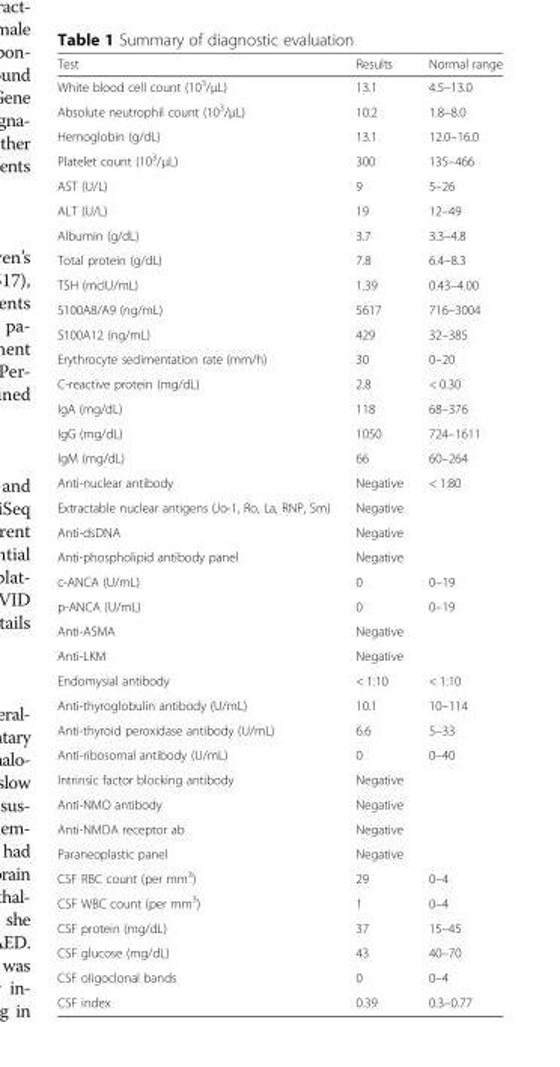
<table><thead><tr><td>Test</td><td>Results</td><td>Normal range</td></tr></thead><tbody><tr><td>White blood cell count (10<sup>3</sup>/μL)</td><td>13.1</td><td>4.5–13.0</td></tr><tr><td>Absolute neutrophil count (10<sup>3</sup>/μL)</td><td>10.2</td><td>1.8–8.0</td></tr><tr><td>Hemoglobin (g/dL)</td><td>13.1</td><td>12.0–16.0</td></tr><tr><td>Platelet count (10<sup>3</sup>/μL)</td><td>300</td><td>135–466</td></tr><tr><td>AST (U/L)</td><td>9</td><td>5–26</td></tr><tr><td>ALT (U/L)</td><td>19</td><td>12–49</td></tr><tr><td>Albumin (g/dL)</td><td>3.7</td><td>3.3–4.8</td></tr><tr><td>Total protein (g/dL)</td><td>7.8</td><td>6.4–8.3</td></tr><tr><td>TSH (mcIU/mL)</td><td>1.39</td><td>0.43–4.00</td></tr><tr><td>S100A8/A9 (ng/mL)</td><td>5617</td><td>716–3004</td></tr><tr><td>S100A12 (ng/mL)</td><td>429</td><td>32–385</td></tr><tr><td>Erythrocyte sedimentation rate (mm/h)</td><td>30</td><td>0–20</td></tr><tr><td>C-reactive protein (mg/dL)</td><td>2.8</td><td>&lt; 0.30</td></tr><tr><td>IgA (mg/dL)</td><td>118</td><td>68–376</td></tr><tr><td>IgG (mg/dL)</td><td>1050</td><td>724–1611</td></tr><tr><td>IgM (mg/dL)</td><td>66</td><td>60–264</td></tr><tr><td>Anti-nuclear antibody</td><td>Negative</td><td>&lt; 1:80</td></tr><tr><td>Extractable nuclear antigens (Jo-1, Ro, La, RNP, Sm)</td><td>Negative</td><td></td></tr><tr><td>Anti-dsDNA</td><td>Negative</td><td></td></tr><tr><td>Anti-phospholipid antibody panel</td><td>Negative</td><td></td></tr><tr><td>c-ANCA (U/mL)</td><td>0</td><td>0–19</td></tr><tr><td>p-ANCA (U/mL)</td><td>0</td><td>0–19</td></tr><tr><td>Anti-ASMA</td><td>Negative</td><td></td></tr><tr><td>Anti-LKM</td><td>Negative</td><td></td></tr><tr><td>Endomysial antibody</td><td>&lt; 1:10</td><td>&lt; 1:10</td></tr><tr><td>Anti-thyroglobulin antibody (U/mL)</td><td>10.1</td><td>10–114</td></tr><tr><td>Anti-thyroid peroxidase antibody (U/mL)</td><td>6.6</td><td>5–33</td></tr><tr><td>Anti-ribosomal antibody (U/mL)</td><td>0</td><td>0–40</td></tr><tr><td>Intrinsic factor blocking antibody</td><td>Negative</td><td></td></tr><tr><td>Anti-NMO antibody</td><td>Negative</td><td></td></tr><tr><td>Anti-NMDA receptor ab</td><td>Negative</td><td></td></tr><tr><td>Paraneoplastic panel</td><td>Negative</td><td></td></tr><tr><td>CSF RBC count (per mm<sup>3</sup>)</td><td>29</td><td>0–4</td></tr><tr><td>CSF WBC count (per mm<sup>3</sup>)</td><td>1</td><td>0–4</td></tr><tr><td>CSF protein (mg/dL)</td><td>37</td><td>15–45</td></tr><tr><td>CSF glucose (mg/dL)</td><td>43</td><td>40–70</td></tr><tr><td>CSF oligoclonal bands</td><td>0</td><td>0–4</td></tr><tr><td>CSF index</td><td>0.39</td><td>0.3–0.77</td></tr></tbody></table>